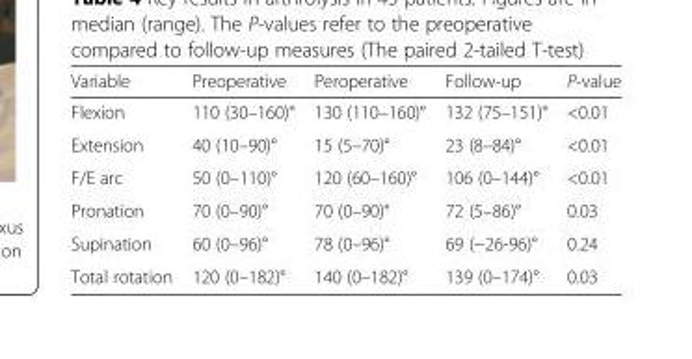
<table><thead><tr><td>Variable</td><td>Preoperative</td><td>Peroperative</td><td>Follow-up</td><td>P-value</td></tr></thead><tbody><tr><td>Flexion</td><td>110 (30–160)°</td><td>130 (110–160)°</td><td>132 (75–151)°</td><td>&lt;0.01</td></tr><tr><td>Extension</td><td>40 (10–90)°</td><td>15 (5–70)°</td><td>23 (8–84)°</td><td>&lt;0.01</td></tr><tr><td>F/E arc</td><td>50 (0–110)°</td><td>120 (60–160)°</td><td>106 (0–144)°</td><td>&lt;0.01</td></tr><tr><td>Pronation</td><td>70 (0–90)°</td><td>70 (0–90)°</td><td>72 (5–86)°</td><td>0.03</td></tr><tr><td>Supination</td><td>60 (0–96)°</td><td>78 (0–96)°</td><td>69 (−26-96)°</td><td>0.24</td></tr><tr><td>Total rotation</td><td>120 (0–182)°</td><td>140 (0–182)°</td><td>139 (0–174)°</td><td>0.03</td></tr></tbody></table>